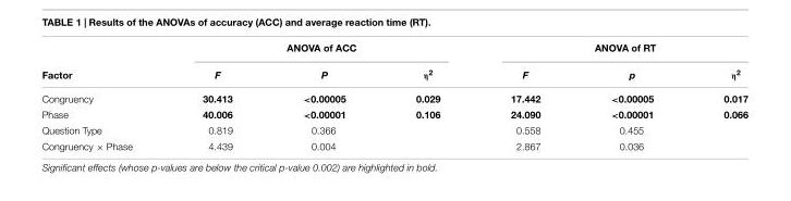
<table><thead><tr><td rowspan="2">Factor</td><td colspan="3">ANOVA of ACC</td><td colspan="3">ANOVA of RT</td></tr><tr><td>F</td><td>P</td><td>η<sup>2</sup></td><td>F</td><td>p</td><td>η<sup>2</sup></td></tr></thead><tbody><tr><td>Congruency</td><td>30.413</td><td>&lt;0.00005</td><td>0.029</td><td>17.442</td><td>&lt;0.00005</td><td>0.017</td></tr><tr><td>Phase</td><td>40.006</td><td>&lt;0.00001</td><td>0.106</td><td>24.090</td><td>&lt;0.00001</td><td>0.066</td></tr><tr><td>Question Type</td><td>0.819</td><td>0.366</td><td></td><td>0.558</td><td>0.455</td><td></td></tr><tr><td>Congruency × Phase</td><td>4.439</td><td>0.004</td><td></td><td>2.867</td><td>0.036</td><td></td></tr></tbody></table>